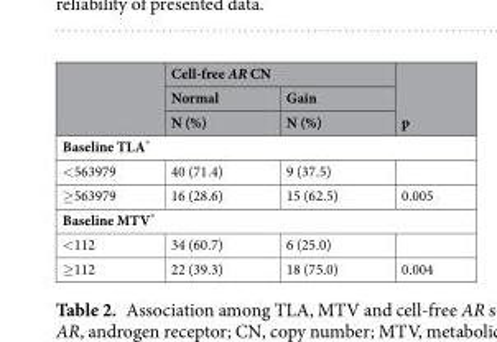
<table><thead><tr><td rowspan="3"></td><td colspan="2">Cell-free AR CN</td><td rowspan="3">p</td></tr><tr><td rowspan="2">Normal N (%)</td><td rowspan="2">Gain N (%)</td></tr><tr></tr></thead><tbody><tr><td colspan="4">Baseline TLA*</td></tr><tr><td>&lt;563979</td><td>40 (71.4)</td><td>9 (37.5)</td><td></td></tr><tr><td>≥563979</td><td>16 (28.6)</td><td>15 (62.5)</td><td>0.005</td></tr><tr><td colspan="4">Baseline MTV*</td></tr><tr><td>&lt;112</td><td>34 (60.7)</td><td>6 (25.0)</td><td></td></tr><tr><td>≥112</td><td>22 (39.3)</td><td>18 (75.0)</td><td>0.004</td></tr></tbody></table>